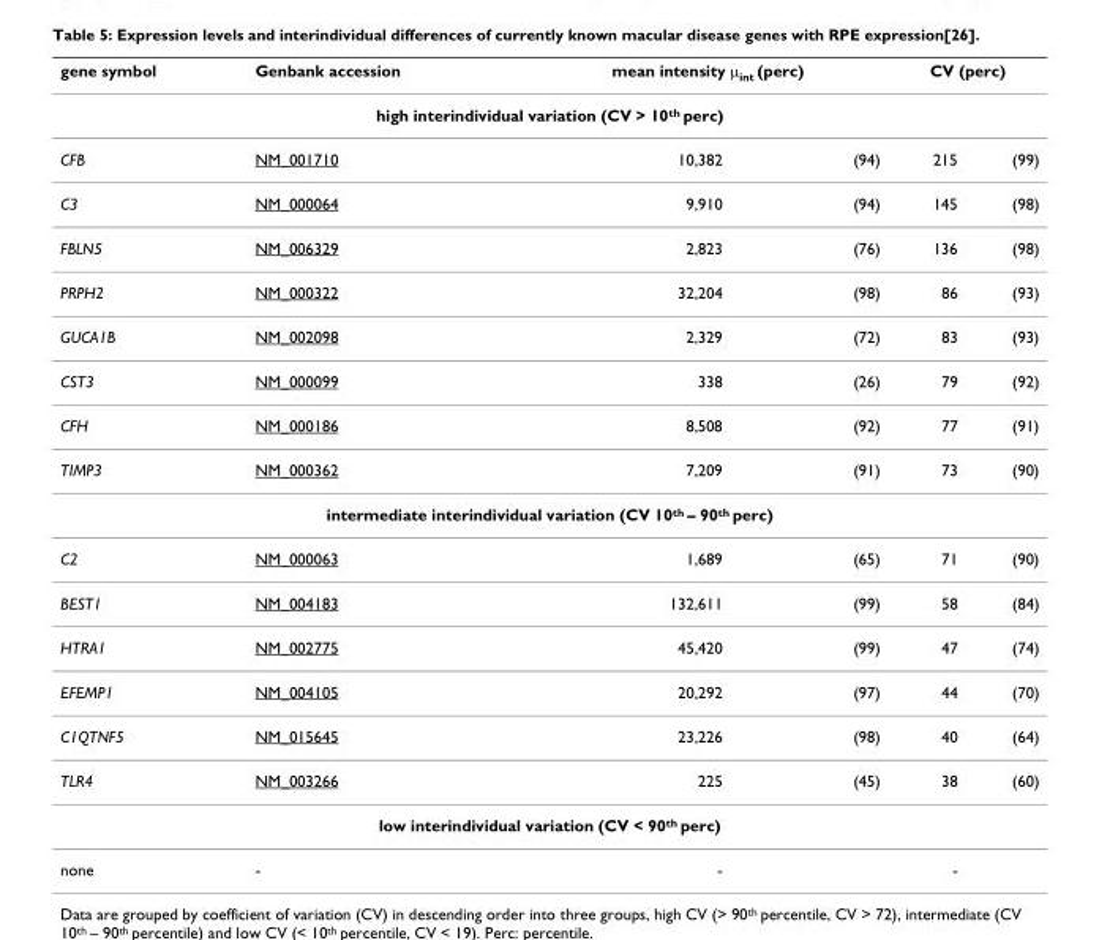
<table><thead><tr><td>gene symbol</td><td>Genbank accession</td><td colspan="2">mean intensity μ<sub>int</sub> (perc)</td><td colspan="2">CV (perc)</td></tr><tr><td colspan="6">high interindividual variation (CV &gt; 10<sup>th</sup> perc)</td></tr><tr><td>CFB</td><td>NM_001710</td><td>10,382</td><td>(94)</td><td>215</td><td>(99)</td></tr></thead><tbody><tr><td>C3</td><td>NM_000064</td><td>9,910</td><td>(94)</td><td>145</td><td>(98)</td></tr><tr><td>FBLN5</td><td>NM_006329</td><td>2,823</td><td>(76)</td><td>136</td><td>(98)</td></tr><tr><td>PRPH2</td><td>NM_000322</td><td>32,204</td><td>(98)</td><td>86</td><td>(93)</td></tr><tr><td>GUCA1B</td><td>NM_002098</td><td>2,329</td><td>(72)</td><td>83</td><td>(93)</td></tr><tr><td>CST3</td><td>NM_000099</td><td>338</td><td>(26)</td><td>79</td><td>(92)</td></tr><tr><td>CFH</td><td>NM_000186</td><td>8,508</td><td>(92)</td><td>77</td><td>(91)</td></tr><tr><td>TIMP3</td><td>NM_000362</td><td>7,209</td><td>(91)</td><td>73</td><td>(90)</td></tr><tr><td colspan="6">intermediate interindividual variation (CV 10<sup>th</sup> – 90<sup>th</sup> perc)</td></tr><tr><td>C2</td><td>NM_000063</td><td>1,689</td><td>(65)</td><td>71</td><td>(90)</td></tr><tr><td>BEST1</td><td>NM_004183</td><td>132,611</td><td>(99)</td><td>58</td><td>(84)</td></tr><tr><td>HTRA1</td><td>NM_002775</td><td>45,420</td><td>(99)</td><td>47</td><td>(74)</td></tr><tr><td>EFEMP1</td><td>NM_004105</td><td>20,292</td><td>(97)</td><td>44</td><td>(70)</td></tr><tr><td>C1QTNF5</td><td>NM_015645</td><td>23,226</td><td>(98)</td><td>40</td><td>(64)</td></tr><tr><td>TLR4</td><td>NM_003266</td><td>225</td><td>(45)</td><td>38</td><td>(60)</td></tr><tr><td colspan="6">low interindividual variation (CV &lt; 90<sup>th</sup> perc)</td></tr><tr><td>none</td><td>-</td><td>-</td><td></td><td>-</td><td></td></tr></tbody></table>